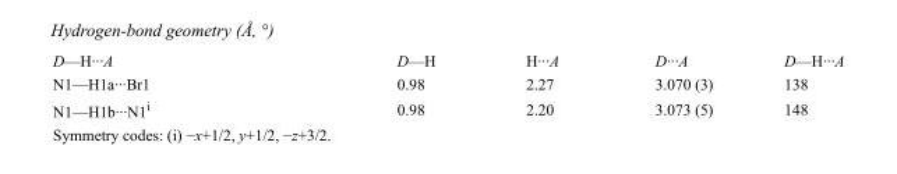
<table><tbody><tr><td>D—H···A</td><td>D—H</td><td>H···A</td><td>D···A</td><td>D—H···A</td></tr><tr><td>N1—H1a···Br1</td><td>0.98</td><td>2.27</td><td>3.070 (3)</td><td>138</td></tr><tr><td>N1—H1b···N1<sup>i</sup></td><td>0.98</td><td>2.20</td><td>3.073 (5)</td><td>148</td></tr></tbody></table>